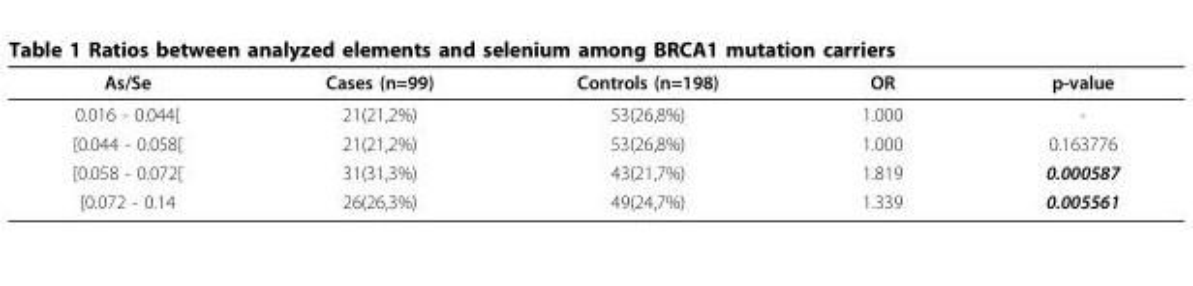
<table><thead><tr><td>As/Se</td><td>Cases (n=99)</td><td>Controls (n=198)</td><td>OR</td><td>p-value</td></tr></thead><tbody><tr><td>0.016 - 0.044[</td><td>21(21,2%)</td><td>53(26,8%)</td><td>1.000</td><td>-</td></tr><tr><td>[0.044 - 0.058[</td><td>21(21,2%)</td><td>53(26,8%)</td><td>1.000</td><td>0.163776</td></tr><tr><td>[0.058 - 0.072[</td><td>31(31,3%)</td><td>43(21,7%)</td><td>1.819</td><td>0.000587</td></tr><tr><td>[0.072 - 0.14</td><td>26(26,3%)</td><td>49(24,7%)</td><td>1.339</td><td>0.005561</td></tr></tbody></table>